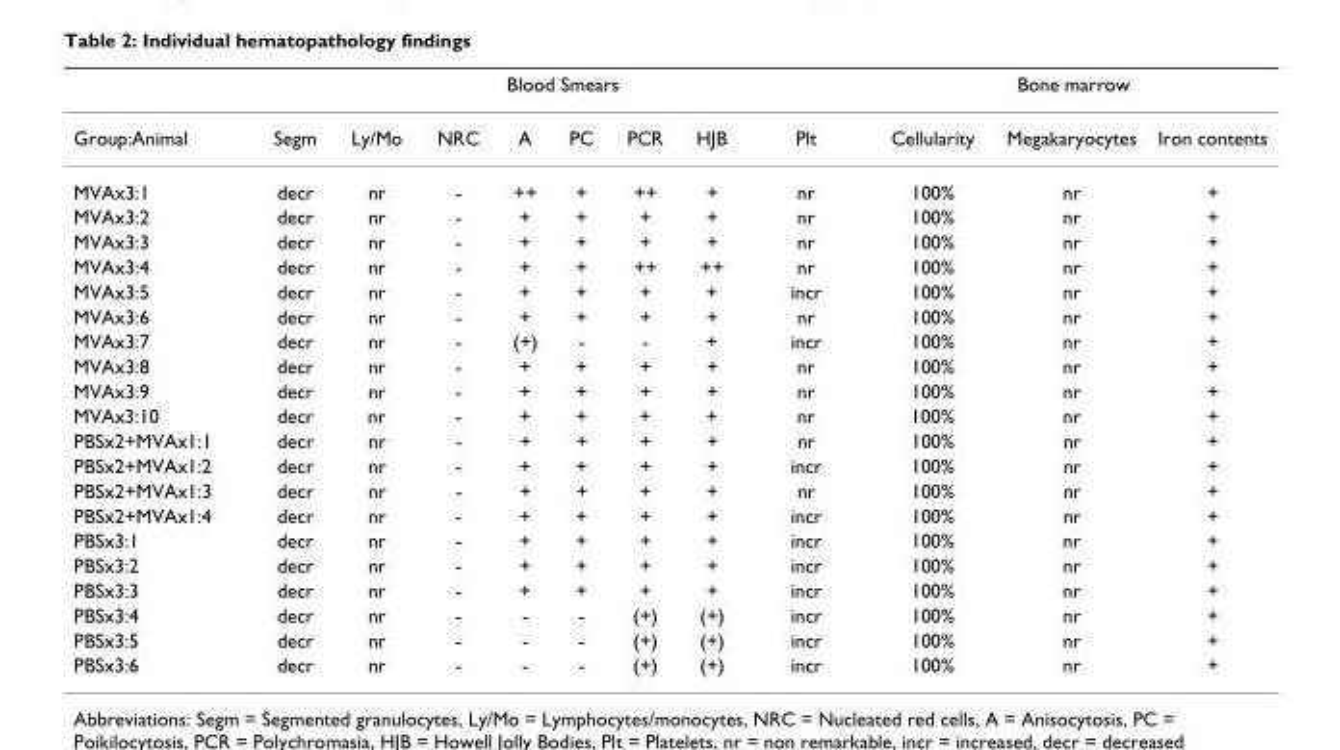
<table><thead><tr><td rowspan="2">Group:Animal</td><td colspan="8">Blood Smears</td><td colspan="3">Bone marrow</td></tr><tr><td>Segm</td><td>Ly/Mo</td><td>NRC</td><td>A</td><td>PC</td><td>PCR</td><td>HJB</td><td>Plt</td><td>Cellularity</td><td>Megakaryocytes</td><td>Iron contents</td></tr></thead><tbody><tr><td>MVAx3:1</td><td>decr</td><td>nr</td><td>-</td><td>++</td><td>+</td><td>++</td><td>+</td><td>nr</td><td>100%</td><td>nr</td><td>+</td></tr><tr><td>MVAx3:2</td><td>decr</td><td>nr</td><td>-</td><td>+</td><td>+</td><td>+</td><td>+</td><td>nr</td><td>100%</td><td>nr</td><td>+</td></tr><tr><td>MVAx3:3</td><td>decr</td><td>nr</td><td>-</td><td>+</td><td>+</td><td>+</td><td>+</td><td>nr</td><td>100%</td><td>nr</td><td>+</td></tr><tr><td>MVAx3:4</td><td>decr</td><td>nr</td><td>-</td><td>+</td><td>+</td><td>++</td><td>++</td><td>nr</td><td>100%</td><td>nr</td><td>+</td></tr><tr><td>MVAx3:5</td><td>decr</td><td>nr</td><td>-</td><td>+</td><td>+</td><td>+</td><td>+</td><td>incr</td><td>100%</td><td>nr</td><td>+</td></tr><tr><td>MVAx3:6</td><td>decr</td><td>nr</td><td>-</td><td>+</td><td>+</td><td>+</td><td>+</td><td>nr</td><td>100%</td><td>nr</td><td>+</td></tr><tr><td>MVAx3:7</td><td>decr</td><td>nr</td><td>-</td><td>(+)</td><td>-</td><td>-</td><td>+</td><td>incr</td><td>100%</td><td>nr</td><td>+</td></tr><tr><td>MVAx3:8</td><td>decr</td><td>nr</td><td>-</td><td>+</td><td>+</td><td>+</td><td>+</td><td>nr</td><td>100%</td><td>nr</td><td>+</td></tr><tr><td>MVAx3:9</td><td>decr</td><td>nr</td><td>-</td><td>+</td><td>+</td><td>+</td><td>+</td><td>nr</td><td>100%</td><td>nr</td><td>+</td></tr><tr><td>MVAx3:10</td><td>decr</td><td>nr</td><td>-</td><td>+</td><td>+</td><td>+</td><td>+</td><td>nr</td><td>100%</td><td>nr</td><td>+</td></tr><tr><td>PBSx2+MVAx1:1</td><td>decr</td><td>nr</td><td>-</td><td>+</td><td>+</td><td>+</td><td>+</td><td>nr</td><td>100%</td><td>nr</td><td>+</td></tr><tr><td>PBSx2+MVAx1:2</td><td>decr</td><td>nr</td><td>-</td><td>+</td><td>+</td><td>+</td><td>+</td><td>incr</td><td>100%</td><td>nr</td><td>+</td></tr><tr><td>PBSx2+MVAx1:3</td><td>decr</td><td>nr</td><td>-</td><td>+</td><td>+</td><td>+</td><td>+</td><td>nr</td><td>100%</td><td>nr</td><td>+</td></tr><tr><td>PBSx2+MVAx1:4</td><td>decr</td><td>nr</td><td>-</td><td>+</td><td>+</td><td>+</td><td>+</td><td>incr</td><td>100%</td><td>nr</td><td>+</td></tr><tr><td>PBSx3:1</td><td>decr</td><td>nr</td><td>-</td><td>+</td><td>+</td><td>+</td><td>+</td><td>incr</td><td>100%</td><td>nr</td><td>+</td></tr><tr><td>PBSx3:2</td><td>decr</td><td>nr</td><td>-</td><td>+</td><td>+</td><td>+</td><td>+</td><td>incr</td><td>100%</td><td>nr</td><td>+</td></tr><tr><td>PBSx3:3</td><td>decr</td><td>nr</td><td>-</td><td>+</td><td>+</td><td>+</td><td>+</td><td>incr</td><td>100%</td><td>nr</td><td>+</td></tr><tr><td>PBSx3:4</td><td>decr</td><td>nr</td><td>-</td><td>-</td><td>-</td><td>(+)</td><td>(+)</td><td>incr</td><td>100%</td><td>nr</td><td>+</td></tr><tr><td>PBSx3:5</td><td>decr</td><td>nr</td><td>-</td><td>-</td><td>-</td><td>(+)</td><td>(+)</td><td>incr</td><td>100%</td><td>nr</td><td>+</td></tr><tr><td>PBSx3:6</td><td>decr</td><td>nr</td><td>-</td><td>-</td><td>-</td><td>(+)</td><td>(+)</td><td>incr</td><td>100%</td><td>nr</td><td>+</td></tr></tbody></table>